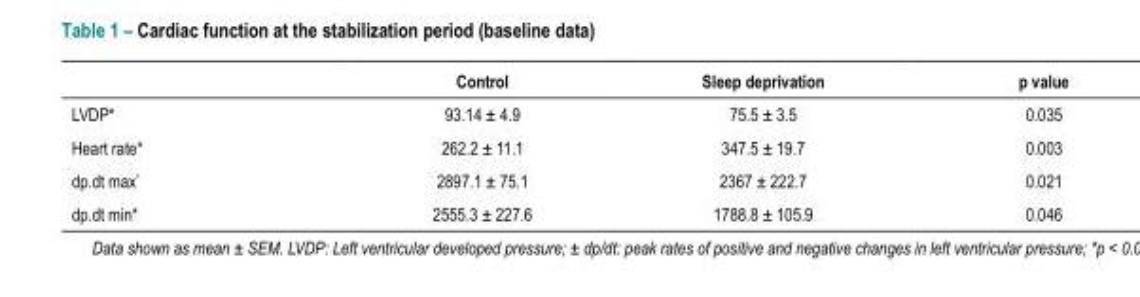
<table><thead><tr><td></td><td>Control</td><td>Sleep deprivation</td><td>p value</td></tr></thead><tbody><tr><td>LVDP*</td><td>93.14 ± 4.9</td><td>75.5 ± 3.5</td><td>0.035</td></tr><tr><td>Heart rate*</td><td>262.2 ± 11.1</td><td>347.5 ± 19.7</td><td>0.003</td></tr><tr><td>dp.dt max*</td><td>2897.1 ± 75.1</td><td>2367 ± 222.7</td><td>0.021</td></tr><tr><td>dp.dt min*</td><td>2555.3 ± 227.6</td><td>1788.8 ± 105.9</td><td>0.046</td></tr></tbody></table>